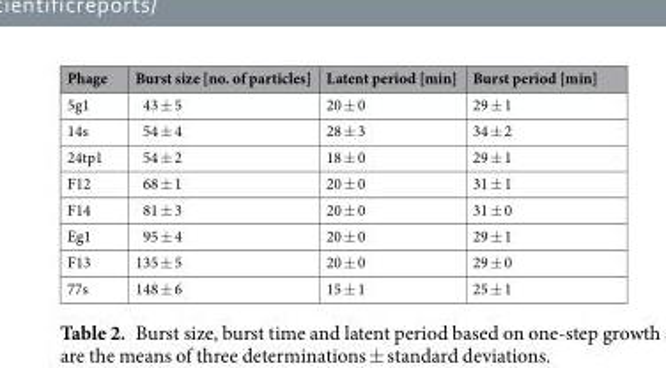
<table><thead><tr><td>Phage</td><td>Burst size [no. of particles]</td><td>Latent period [min]</td><td>Burst period [min]</td></tr></thead><tbody><tr><td>5g1</td><td>43 ± 5</td><td>20 ± 0</td><td>29 ± 1</td></tr><tr><td>14s</td><td>54 ± 4</td><td>28 ± 3</td><td>34 ± 2</td></tr><tr><td>24tp1</td><td>54 ± 2</td><td>18 ± 0</td><td>29 ± 1</td></tr><tr><td>F12</td><td>68 ± 1</td><td>20 ± 0</td><td>31 ± 1</td></tr><tr><td>F14</td><td>81 ± 3</td><td>20 ± 0</td><td>31 ± 0</td></tr><tr><td>Eg1</td><td>95 ± 4</td><td>20 ± 0</td><td>29 ± 1</td></tr><tr><td>F13</td><td>135 ± 5</td><td>20 ± 0</td><td>29 ± 0</td></tr><tr><td>77s</td><td>148 ± 6</td><td>15 ± 1</td><td>25 ± 1</td></tr></tbody></table>